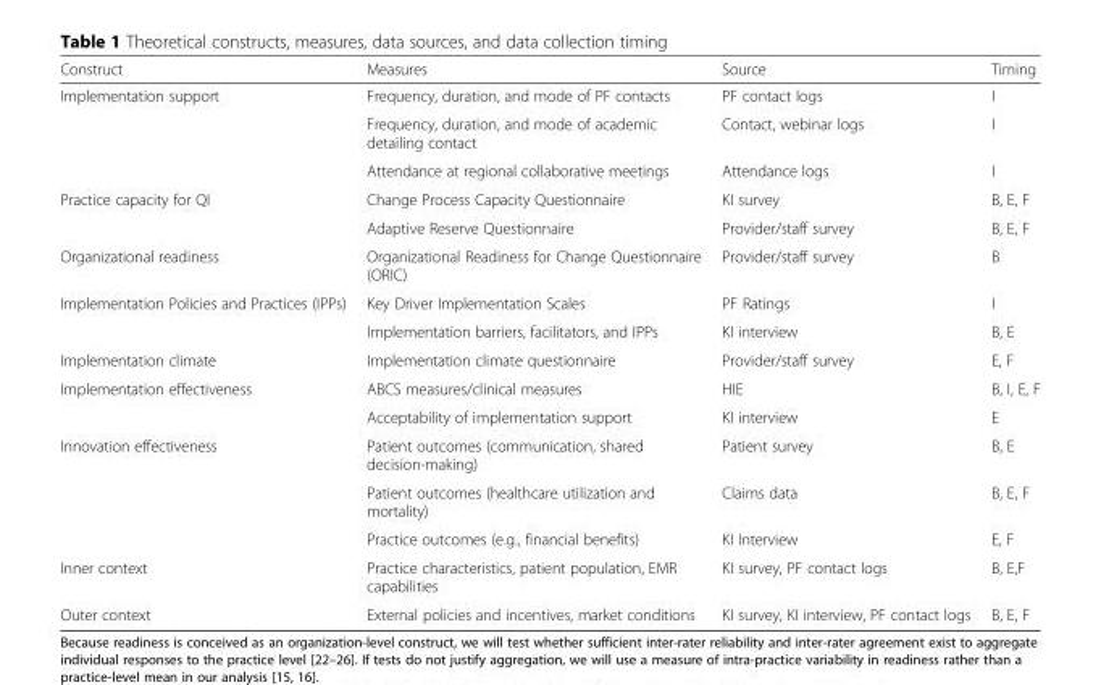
<table><thead><tr><td>Construct</td><td>Measures</td><td>Source</td><td>Timing</td></tr></thead><tbody><tr><td rowspan="3">Implementation support</td><td>Frequency, duration, and mode of PF contacts</td><td>PF contact logs</td><td>I</td></tr><tr><td>Frequency, duration, and mode of academic detailing contact</td><td>Contact, webinar logs</td><td>I</td></tr><tr><td>Attendance at regional collaborative meetings</td><td>Attendance logs</td><td>I</td></tr><tr><td rowspan="2">Practice capacity for QI</td><td>Change Process Capacity Questionnaire</td><td>KI survey</td><td>B, E, F</td></tr><tr><td>Adaptive Reserve Questionnaire</td><td>Provider/staff survey</td><td>B, E, F</td></tr><tr><td>Organizational readiness</td><td>Organizational Readiness for Change Questionnaire (ORIC)</td><td>Provider/staff survey</td><td>B</td></tr><tr><td rowspan="2">Implementation Policies and Practices (IPPs)</td><td>Key Driver Implementation Scales</td><td>PF Ratings</td><td>I</td></tr><tr><td>Implementation barriers, facilitators, and IPPs</td><td>KI interview</td><td>B, E</td></tr><tr><td>Implementation climate</td><td>Implementation climate questionnaire</td><td>Provider/staff survey</td><td>E, F</td></tr><tr><td rowspan="2">Implementation effectiveness</td><td>ABCS measures/clinical measures</td><td>HIE</td><td>B, I, E, F</td></tr><tr><td>Acceptability of implementation support</td><td>KI interview</td><td>E</td></tr><tr><td rowspan="3">Innovation effectiveness</td><td>Patient outcomes (communication, shared decision-making)</td><td>Patient survey</td><td>B, E</td></tr><tr><td>Patient outcomes (healthcare utilization and mortality)</td><td>Claims data</td><td>B, E, F</td></tr><tr><td>Practice outcomes (e.g., financial benefits)</td><td>KI Interview</td><td>E, F</td></tr><tr><td>Inner context</td><td>Practice characteristics, patient population, EMR capabilities</td><td>KI survey, PF contact logs</td><td>B, E,F</td></tr><tr><td>Outer context</td><td>External policies and incentives, market conditions</td><td>KI survey, KI interview, PF contact logs</td><td>B, E, F</td></tr></tbody></table>